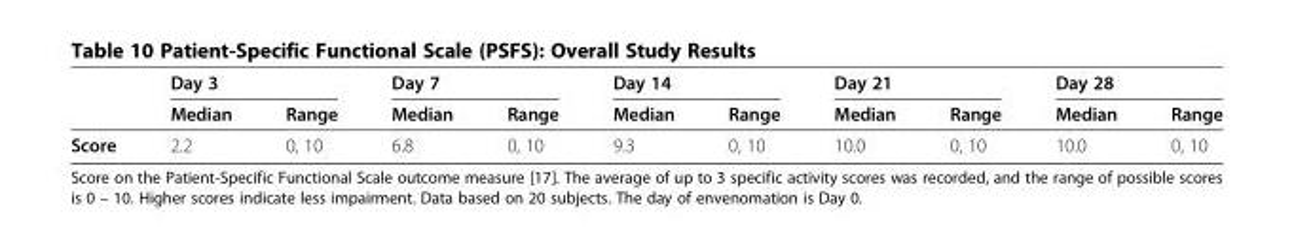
<table><thead><tr><td rowspan="2"></td><td colspan="2">Day 3</td><td colspan="2">Day 7</td><td colspan="2">Day 14</td><td colspan="2">Day 21</td><td colspan="2">Day 28</td></tr><tr><td>Median</td><td>Range</td><td>Median</td><td>Range</td><td>Median</td><td>Range</td><td>Median</td><td>Range</td><td>Median</td><td>Range</td></tr></thead><tbody><tr><td>Score</td><td>2.2</td><td>0, 10</td><td>6.8</td><td>0, 10</td><td>9.3</td><td>0, 10</td><td>10.0</td><td>0, 10</td><td>10.0</td><td>0, 10</td></tr></tbody></table>